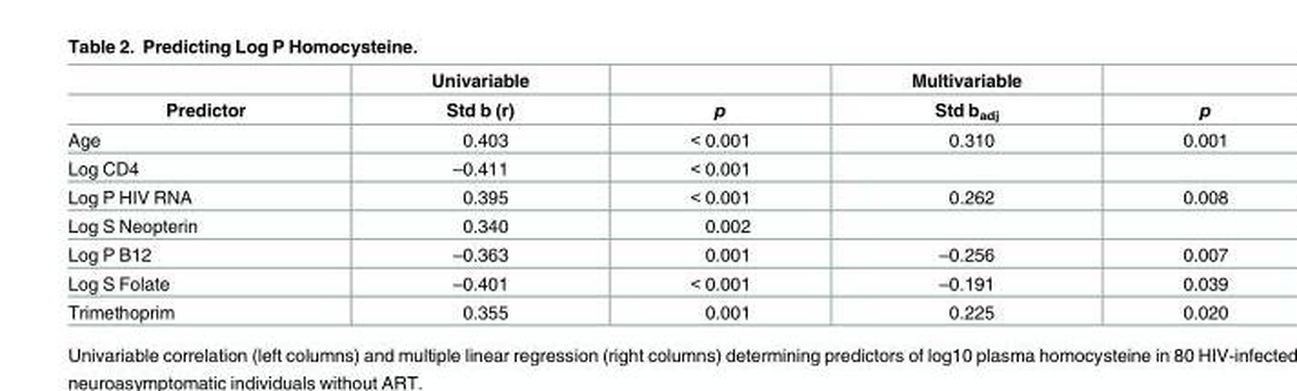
<table><thead><tr><td rowspan="2">Predictor</td><td rowspan="2">Univariable Std b (r)</td><td rowspan="2">p</td><td rowspan="2">Multivariable Std b<sub>adj</sub></td><td rowspan="2">p</td></tr><tr></tr></thead><tbody><tr><td>Age</td><td>0.403</td><td>&lt; 0.001</td><td>0.310</td><td>0.001</td></tr><tr><td>Log CD4</td><td>–0.411</td><td>&lt; 0.001</td><td></td><td></td></tr><tr><td>Log P HIV RNA</td><td>0.395</td><td>&lt; 0.001</td><td>0.262</td><td>0.008</td></tr><tr><td>Log S Neopterin</td><td>0.340</td><td>0.002</td><td></td><td></td></tr><tr><td>Log P B12</td><td>–0.363</td><td>0.001</td><td>–0.256</td><td>0.007</td></tr><tr><td>Log S Folate</td><td>–0.401</td><td>&lt; 0.001</td><td>–0.191</td><td>0.039</td></tr><tr><td>Trimethoprim</td><td>0.355</td><td>0.001</td><td>0.225</td><td>0.020</td></tr></tbody></table>